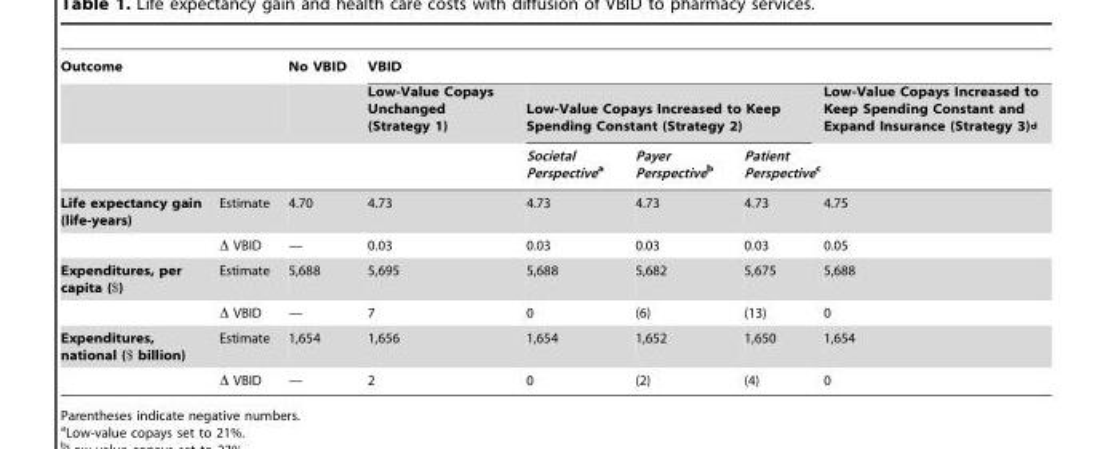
<table><thead><tr><td colspan="2">Outcome</td><td rowspan="3">No VBID</td><td colspan="5">VBID</td></tr><tr><td rowspan="2"></td><td rowspan="2"></td><td rowspan="2">Low-Value Copays Unchanged (Strategy 1)</td><td colspan="3">Low-Value Copays Increased to Keep Spending Constant (Strategy 2)</td><td rowspan="2">Low-Value Copays Increased to Keep Spending Constant and Expand Insurance (Strategy 3)<sup>d</sup></td></tr><tr><td>Societal Perspectivea</td><td>Payer Perspectiveb</td><td>Patient Perspectivec</td></tr></thead><tbody><tr><td rowspan="2">Life expectancy gain (life-years)</td><td>Estimate</td><td>4.70</td><td>4.73</td><td>4.73</td><td>4.73</td><td>4.73</td><td>4.75</td></tr><tr><td>Δ VBID</td><td>—</td><td>0.03</td><td>0.03</td><td>0.03</td><td>0.03</td><td>0.05</td></tr><tr><td rowspan="2">Expenditures, per capita ($)</td><td>Estimate</td><td>5,688</td><td>5,695</td><td>5,688</td><td>5,682</td><td>5,675</td><td>5,688</td></tr><tr><td>Δ VBID</td><td>—</td><td>7</td><td>0</td><td>(6)</td><td>(13)</td><td>0</td></tr><tr><td rowspan="2">Expenditures, national ($ billion)</td><td>Estimate</td><td>1,654</td><td>1,656</td><td>1,654</td><td>1,652</td><td>1,650</td><td>1,654</td></tr><tr><td>Δ VBID</td><td>—</td><td>2</td><td>0</td><td>(2)</td><td>(4)</td><td>0</td></tr></tbody></table>